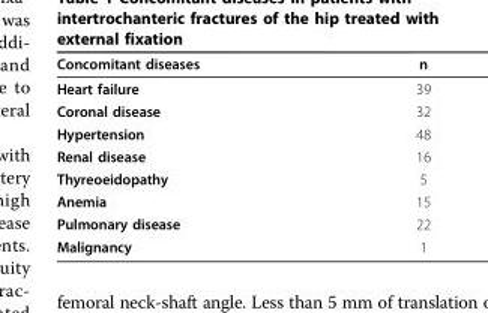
<table><thead><tr><td>Concomitant diseases</td><td>n</td></tr></thead><tbody><tr><td>Heart failure</td><td>39</td></tr><tr><td>Coronal disease</td><td>32</td></tr><tr><td>Hypertension</td><td>48</td></tr><tr><td>Renal disease</td><td>16</td></tr><tr><td>Thyreoeidopathy</td><td>5</td></tr><tr><td>Anemia</td><td>15</td></tr><tr><td>Pulmonary disease</td><td>22</td></tr><tr><td>Malignancy</td><td>1</td></tr></tbody></table>